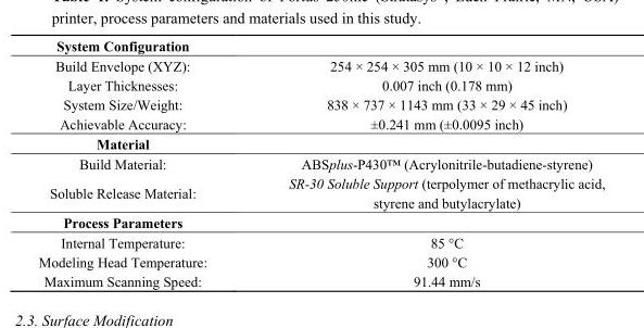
<table><tbody><tr><td colspan="2">System Configuration</td></tr><tr><td>Build Envelope (XYZ):</td><td>254 × 254 × 305 mm (10 × 10 × 12 inch)</td></tr><tr><td>Layer Thicknesses:</td><td>0.007 inch (0.178 mm)</td></tr><tr><td>System Size/Weight:</td><td>838 × 737 × 1143 mm (33 × 29 × 45 inch)</td></tr><tr><td>Achievable Accuracy:</td><td>±0.241 mm (±0.0095 inch)</td></tr><tr><td colspan="2">Material</td></tr><tr><td>Build Material:</td><td>ABSplus-P430™ (Acrylonitrile-butadiene-styrene)</td></tr><tr><td>Soluble Release Material:</td><td>SR-30 Soluble Support (terpolymer of methacrylic acid, styrene and butylacrylate)</td></tr><tr><td colspan="2">Process Parameters</td></tr><tr><td>Internal Temperature:</td><td>85 °C</td></tr><tr><td>Modeling Head Temperature:</td><td>300 °C</td></tr><tr><td>Maximum Scanning Speed:</td><td>91.44 mm/s</td></tr></tbody></table>